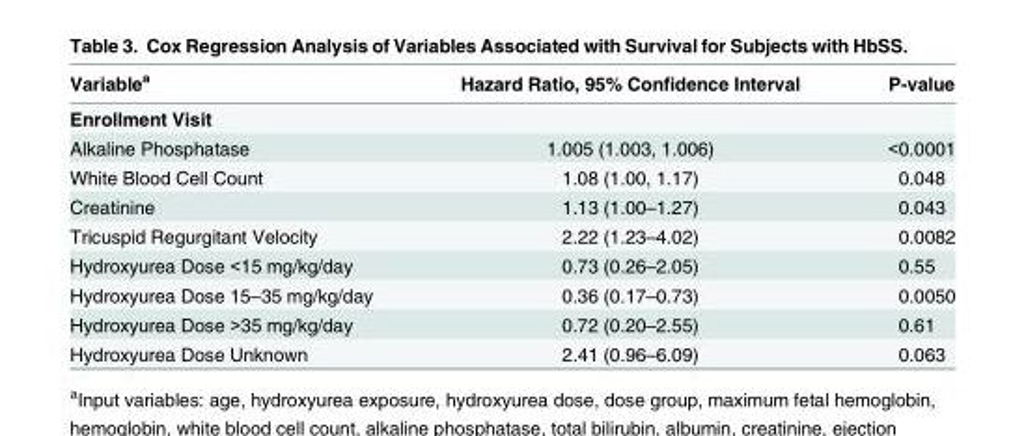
<table><thead><tr><td>Variable<sup>a</sup></td><td>Hazard Ratio, 95% Confidence Interval</td><td>P-value</td></tr></thead><tbody><tr><td colspan="3">Enrollment Visit</td></tr><tr><td>Alkaline Phosphatase</td><td>1.005 (1.003, 1.006)</td><td>&lt;0.0001</td></tr><tr><td>White Blood Cell Count</td><td>1.08 (1.00, 1.17)</td><td>0.048</td></tr><tr><td>Creatinine</td><td>1.13 (1.00–1.27)</td><td>0.043</td></tr><tr><td>Tricuspid Regurgitant Velocity</td><td>2.22 (1.23–4.02)</td><td>0.0082</td></tr><tr><td>Hydroxyurea Dose &lt;15 mg/kg/day</td><td>0.73 (0.26–2.05)</td><td>0.55</td></tr><tr><td>Hydroxyurea Dose 15–35 mg/kg/day</td><td>0.36 (0.17–0.73)</td><td>0.0050</td></tr><tr><td>Hydroxyurea Dose &gt;35 mg/kg/day</td><td>0.72 (0.20–2.55)</td><td>0.61</td></tr><tr><td>Hydroxyurea Dose Unknown</td><td>2.41 (0.96–6.09)</td><td>0.063</td></tr></tbody></table>